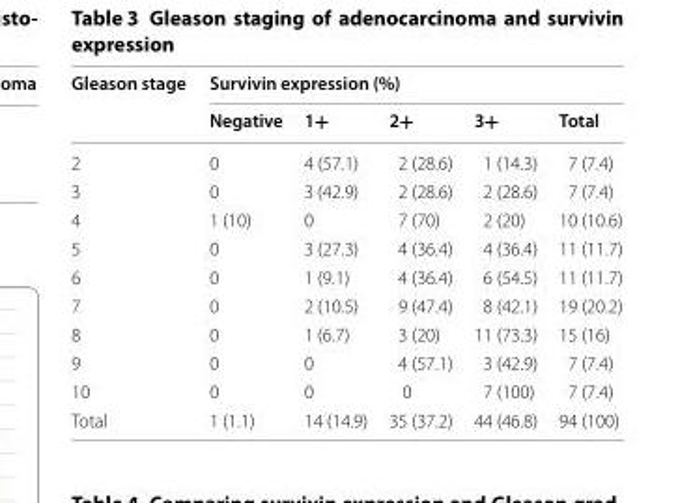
<table><thead><tr><td rowspan="2">Gleason stage</td><td colspan="5">Survivin expression (%)</td></tr><tr><td>Negative</td><td>1+</td><td>2+</td><td>3+</td><td>Total</td></tr></thead><tbody><tr><td>2</td><td>0</td><td>4 (57.1)</td><td>2 (28.6)</td><td>1 (14.3)</td><td>7 (7.4)</td></tr><tr><td>3</td><td>0</td><td>3 (42.9)</td><td>2 (28.6)</td><td>2 (28.6)</td><td>7 (7.4)</td></tr><tr><td>4</td><td>1 (10)</td><td>0</td><td>7 (70)</td><td>2 (20)</td><td>10 (10.6)</td></tr><tr><td>5</td><td>0</td><td>3 (27.3)</td><td>4 (36.4)</td><td>4 (36.4)</td><td>11 (11.7)</td></tr><tr><td>6</td><td>0</td><td>1 (9.1)</td><td>4 (36.4)</td><td>6 (54.5)</td><td>11 (11.7)</td></tr><tr><td>7</td><td>0</td><td>2 (10.5)</td><td>9 (47.4)</td><td>8 (42.1)</td><td>19 (20.2)</td></tr><tr><td>8</td><td>0</td><td>1 (6.7)</td><td>3 (20)</td><td>11 (73.3)</td><td>15 (16)</td></tr><tr><td>9</td><td>0</td><td>0</td><td>4 (57.1)</td><td>3 (42.9)</td><td>7 (7.4)</td></tr><tr><td>10</td><td>0</td><td>0</td><td>0</td><td>7 (100)</td><td>7 (7.4)</td></tr><tr><td>Total</td><td>1 (1.1)</td><td>14 (14.9)</td><td>35 (37.2)</td><td>44 (46.8)</td><td>94 (100)</td></tr></tbody></table>